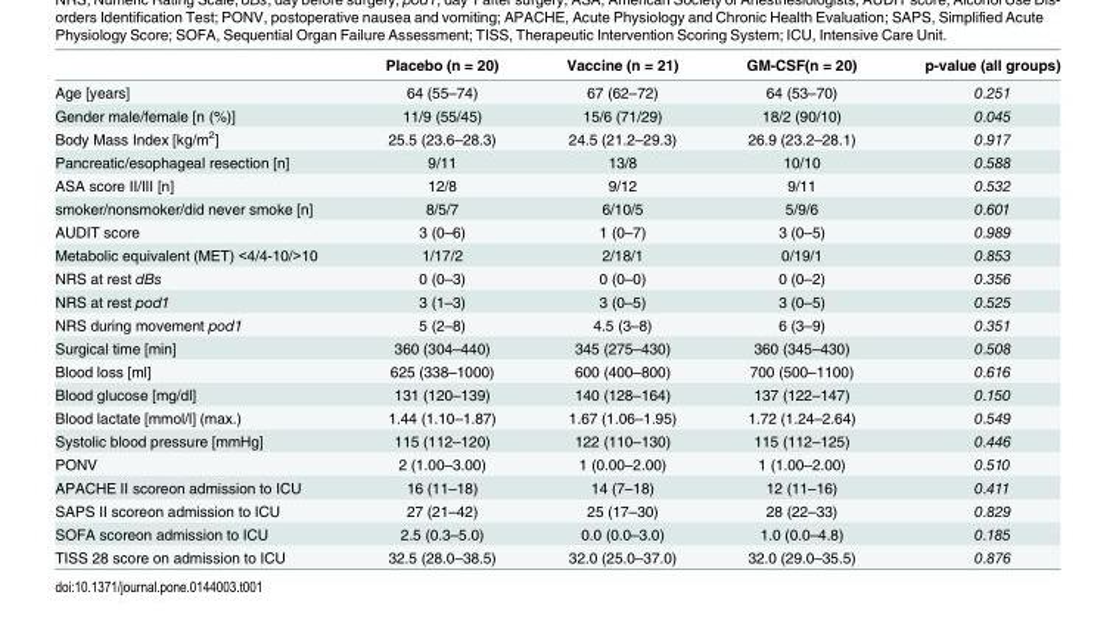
<table><thead><tr><td></td><td>Placebo (n = 20)</td><td>Vaccine (n = 21)</td><td>GM-CSF(n = 20)</td><td>p-value (all groups)</td></tr></thead><tbody><tr><td>Age [years]</td><td>64 (55–74)</td><td>67 (62–72)</td><td>64 (53–70)</td><td>0.251</td></tr><tr><td>Gender male/female [n (%)]</td><td>11/9 (55/45)</td><td>15/6 (71/29)</td><td>18/2 (90/10)</td><td>0.045</td></tr><tr><td>Body Mass Index [kg/m<sup>2</sup>]</td><td>25.5 (23.6–28.3)</td><td>24.5 (21.2–29.3)</td><td>26.9 (23.2–28.1)</td><td>0.917</td></tr><tr><td>Pancreatic/esophageal resection [n]</td><td>9/11</td><td>13/8</td><td>10/10</td><td>0.588</td></tr><tr><td>ASA score II/III [n]</td><td>12/8</td><td>9/12</td><td>9/11</td><td>0.532</td></tr><tr><td>smoker/nonsmoker/did never smoke [n]</td><td>8/5/7</td><td>6/10/5</td><td>5/9/6</td><td>0.601</td></tr><tr><td>AUDIT score</td><td>3 (0–6)</td><td>1 (0–7)</td><td>3 (0–5)</td><td>0.989</td></tr><tr><td>Metabolic equivalent (MET) &lt;4/4-10/&gt;10</td><td>1/17/2</td><td>2/18/1</td><td>0/19/1</td><td>0.853</td></tr><tr><td>NRS at rest dBs</td><td>0 (0–3)</td><td>0 (0–0)</td><td>0 (0–2)</td><td>0.356</td></tr><tr><td>NRS at rest pod1</td><td>3 (1–3)</td><td>3 (0–5)</td><td>3 (0–5)</td><td>0.525</td></tr><tr><td>NRS during movement pod1</td><td>5 (2–8)</td><td>4.5 (3–8)</td><td>6 (3–9)</td><td>0.351</td></tr><tr><td>Surgical time [min]</td><td>360 (304–440)</td><td>345 (275–430)</td><td>360 (345–430)</td><td>0.508</td></tr><tr><td>Blood loss [ml]</td><td>625 (338–1000)</td><td>600 (400–800)</td><td>700 (500–1100)</td><td>0.616</td></tr><tr><td>Blood glucose [mg/dl]</td><td>131 (120–139)</td><td>140 (128–164)</td><td>137 (122–147)</td><td>0.150</td></tr><tr><td>Blood lactate [mmol/l] (max.)</td><td>1.44 (1.10–1.87)</td><td>1.67 (1.06–1.95)</td><td>1.72 (1.24–2.64)</td><td>0.549</td></tr><tr><td>Systolic blood pressure [mmHg]</td><td>115 (112–120)</td><td>122 (110–130)</td><td>115 (112–125)</td><td>0.446</td></tr><tr><td>PONV</td><td>2 (1.00–3.00)</td><td>1 (0.00–2.00)</td><td>1 (1.00–2.00)</td><td>0.510</td></tr><tr><td>APACHE II scoreon admission to ICU</td><td>16 (11–18)</td><td>14 (7–18)</td><td>12 (11–16)</td><td>0.411</td></tr><tr><td>SAPS II scoreon admission to ICU</td><td>27 (21–42)</td><td>25 (17–30)</td><td>28 (22–33)</td><td>0.829</td></tr><tr><td>SOFA scoreon admission to ICU</td><td>2.5 (0.3–5.0)</td><td>0.0 (0.0–3.0)</td><td>1.0 (0.0–4.8)</td><td>0.185</td></tr><tr><td>TISS 28 score on admission to ICU</td><td>32.5 (28.0–38.5)</td><td>32.0 (25.0–37.0)</td><td>32.0 (29.0–35.5)</td><td>0.876</td></tr></tbody></table>